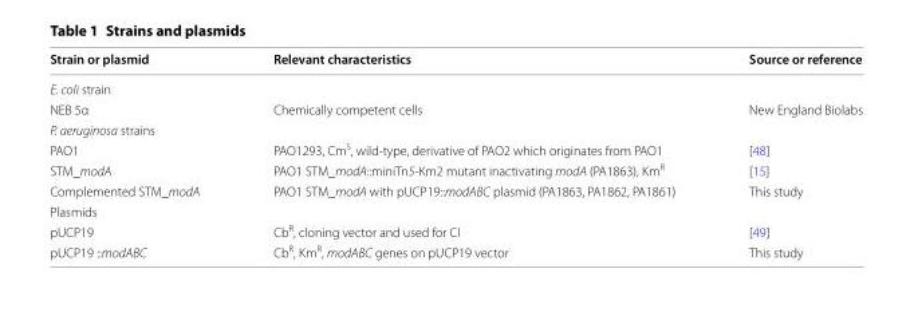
<table><thead><tr><td>Strain or plasmid</td><td>Relevant characteristics</td><td>Source or reference</td></tr></thead><tbody><tr><td colspan="3">E. coli strain</td></tr><tr><td>NEB 5α</td><td>Chemically competent cells</td><td>New England Biolabs</td></tr><tr><td colspan="3">P. aeruginosa strains</td></tr><tr><td>PAO1</td><td>PAO1293, Cm<sup>S</sup>, wild‑type, derivative of PAO2 which originates from PAO1</td><td>[48]</td></tr><tr><td>STM_modA</td><td>PAO1 STM_modA::miniTn5‑Km2 mutant inactivating modA (PA1863), Km<sup>R</sup></td><td>[15]</td></tr><tr><td>Complemented STM_modA</td><td>PAO1 STM_modA with pUCP19::modABC plasmid (PA1863, PA1862, PA1861)</td><td>This study</td></tr><tr><td colspan="3">Plasmids</td></tr><tr><td>pUCP19</td><td>Cb<sup>R</sup>, cloning vector and used for CI</td><td>[49]</td></tr><tr><td>pUCP19 ::modABC</td><td>Cb<sup>R</sup>, Km<sup>R</sup>, modABC genes on pUCP19 vector</td><td>This study</td></tr></tbody></table>